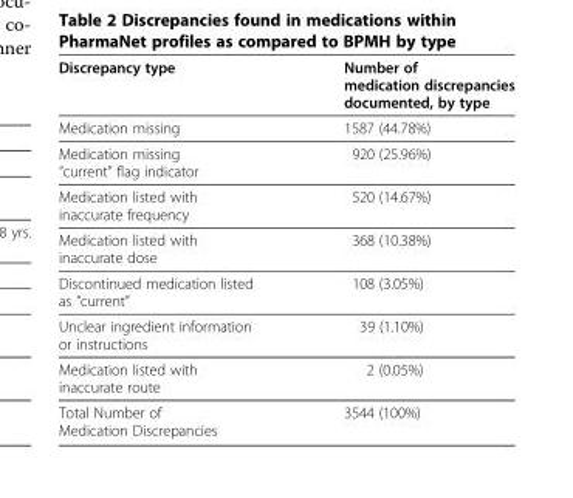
<table><thead><tr><td>Discrepancy type</td><td>Number of medication discrepancies documented, by type</td></tr></thead><tbody><tr><td>Medication missing</td><td>1587 (44.78%)</td></tr><tr><td>Medication missing “current” flag indicator</td><td>920 (25.96%)</td></tr><tr><td>Medication listed with inaccurate frequency</td><td>520 (14.67%)</td></tr><tr><td>Medication listed with inaccurate dose</td><td>368 (10.38%)</td></tr><tr><td>Discontinued medication listed as “current”</td><td>108 (3.05%)</td></tr><tr><td>Unclear ingredient information or instructions</td><td>39 (1.10%)</td></tr><tr><td>Medication listed with inaccurate route</td><td>2 (0.05%)</td></tr><tr><td>Total Number of Medication Discrepancies</td><td>3544 (100%)</td></tr></tbody></table>